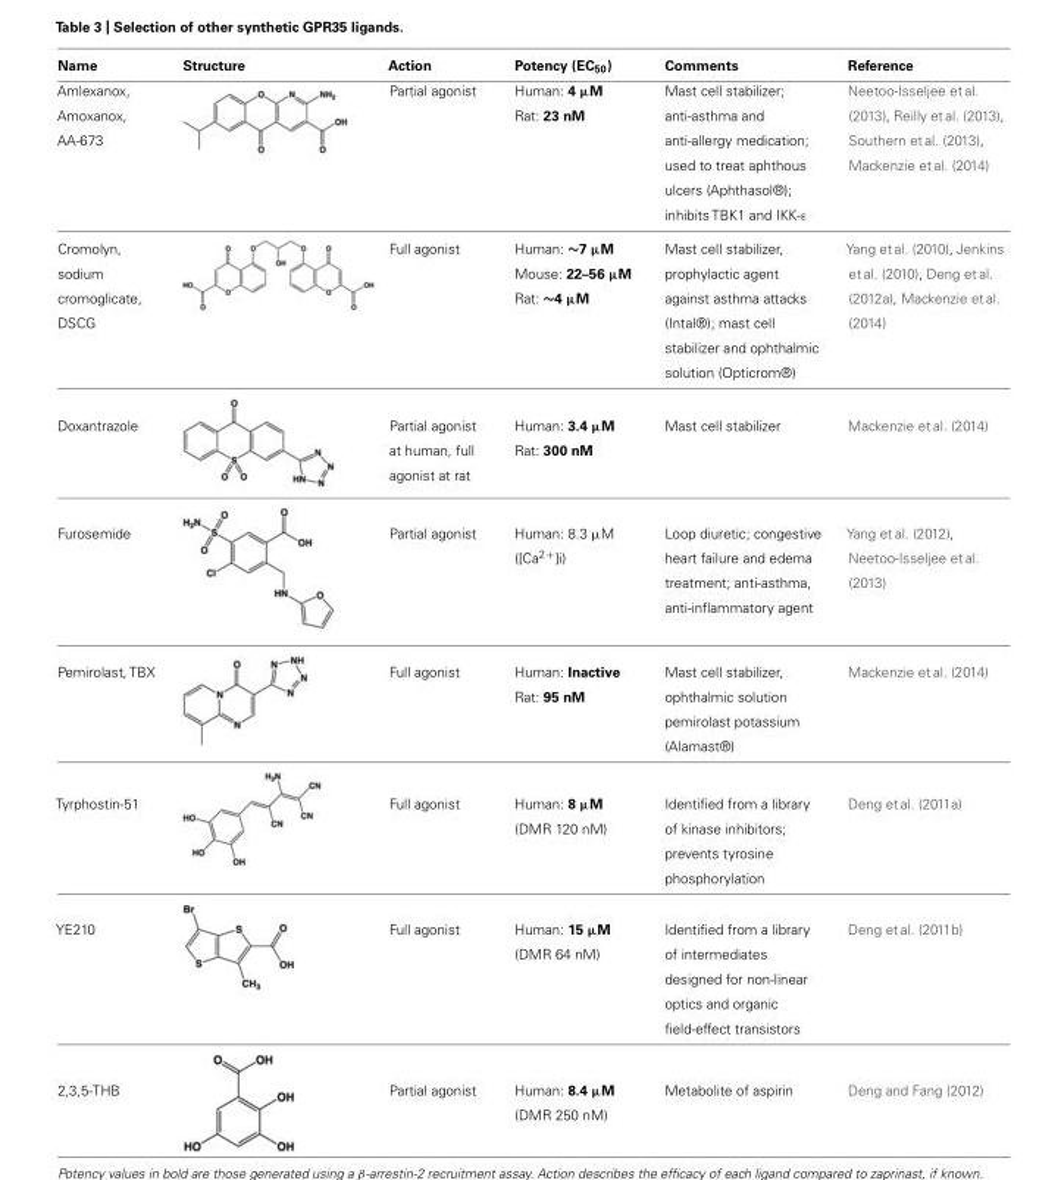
<table><thead><tr><td>Name</td><td>Structure</td><td>Action</td><td>Potency (EC50)</td><td>Comments</td><td>Reference</td></tr></thead><tbody><tr><td>Amlexanox, Amoxanox, AA-673</td><td></td><td>Partial agonist</td><td>Human: 4 μM Rat: 23 nM</td><td>Mast cell stabilizer; anti-asthma and anti-allergy medication; used to treat aphthous ulcers (Aphthasol®); inhibits TBK1 and IKK-ε</td><td>Neetoo-Isseljee et al. (2013), Reilly et al. (2013), Southern et al. (2013), Mackenzie et al. (2014)</td></tr><tr><td>Cromolyn, sodium cromoglicate, DSCG</td><td></td><td>Full agonist</td><td>Human: ∼7 μM Mouse: 22–56 μM Rat: ∼4 μM</td><td>Mast cell stabilizer, prophylactic agent against asthma attacks (Intal®); mast cell stabilizer and ophthalmic solution (Opticrom®)</td><td>Yang et al. (2010), Jenkins et al. (2010), Deng et al. (2012a), Mackenzie et al. (2014)</td></tr><tr><td>Doxantrazole</td><td></td><td>Partial agonist at human, full agonist at rat</td><td>Human: 3.4 μM Rat: 300 nM</td><td>Mast cell stabilizer</td><td>Mackenzie et al. (2014)</td></tr><tr><td>Furosemide</td><td></td><td>Partial agonist</td><td>Human: 8.3 μM ([Ca2+]i)</td><td>Loop diuretic; congestive heart failure and edema treatment; anti-asthma, anti-inflammatory agent</td><td>Yang et al. (2012), Neetoo-Isseljee et al. (2013)</td></tr><tr><td>Pemirolast, TBX</td><td></td><td>Full agonist</td><td>Human: Inactive Rat: 95 nM</td><td>Mast cell stabilizer, ophthalmic solution pemirolast potassium (Alamast®)</td><td>Mackenzie et al. (2014)</td></tr><tr><td>Tyrphostin-51</td><td></td><td>Full agonist</td><td>Human: 8 μM (DMR 120 nM)</td><td>Identified from a library of kinase inhibitors; prevents tyrosine phosphorylation</td><td>Deng et al. (2011a)</td></tr><tr><td>YE210</td><td></td><td>Full agonist</td><td>Human: 15 μM (DMR 64 nM)</td><td>Identified from a library of intermediates designed for non-linear optics and organic field-effect transistors</td><td>Deng et al. (2011b)</td></tr><tr><td>2,3,5-THB</td><td></td><td>Partial agonist</td><td>Human: 8.4 μM (DMR 250 nM)</td><td>Metabolite of aspirin</td><td>Deng and Fang (2012)</td></tr></tbody></table>